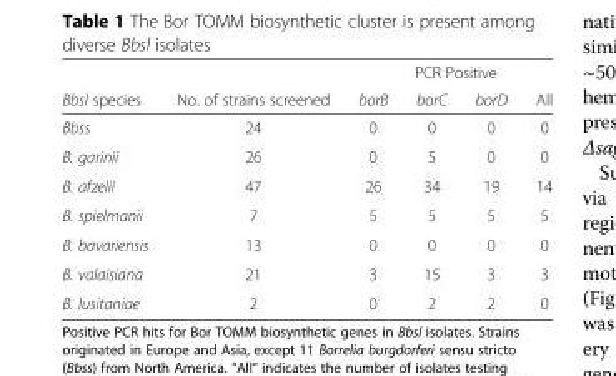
<table><thead><tr><td rowspan="2">Bbsl species</td><td rowspan="2">No. of strains screened</td><td colspan="4">PCR Positive</td></tr><tr><td>borB</td><td>borC</td><td>borD</td><td>All</td></tr></thead><tbody><tr><td>Bbss</td><td>24</td><td>0</td><td>0</td><td>0</td><td>0</td></tr><tr><td>B. garinii</td><td>26</td><td>0</td><td>5</td><td>0</td><td>0</td></tr><tr><td>B. afzelii</td><td>47</td><td>26</td><td>34</td><td>19</td><td>14</td></tr><tr><td>B. spielmanii</td><td>7</td><td>5</td><td>5</td><td>5</td><td>5</td></tr><tr><td>B. bavariensis</td><td>13</td><td>0</td><td>0</td><td>0</td><td>0</td></tr><tr><td>B. valaisiana</td><td>21</td><td>3</td><td>15</td><td>3</td><td>3</td></tr><tr><td>B. lusitaniae</td><td>2</td><td>0</td><td>2</td><td>2</td><td>0</td></tr></tbody></table>